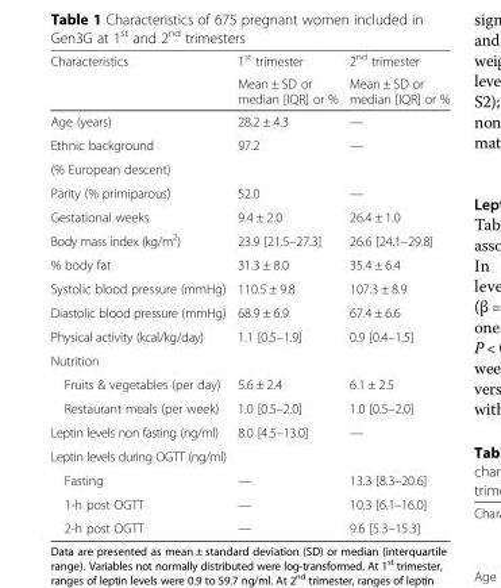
<table><thead><tr><td rowspan="2">Characteristics</td><td rowspan="2">1<sup>st</sup> trimester Mean ± SD or median [IQR] or %</td><td rowspan="2">2<sup>nd</sup> trimester Mean ± SD or median [IQR] or %</td></tr><tr></tr></thead><tbody><tr><td>Age (years)</td><td>28.2 ± 4.3</td><td>—</td></tr><tr><td>Ethnic background</td><td rowspan="2">97.2</td><td rowspan="2">—</td></tr><tr><td>(% European descent)</td></tr><tr><td>Parity (% primiparous)</td><td>52.0</td><td>—</td></tr><tr><td>Gestational weeks</td><td>9.4 ± 2.0</td><td>26.4 ± 1.0</td></tr><tr><td>Body mass index (kg/m<sup>2</sup>)</td><td>23.9 [21.5–27.3]</td><td>26.6 [24.1–29.8]</td></tr><tr><td>% body fat</td><td>31.3 ± 8.0</td><td>35.4 ± 6.4</td></tr><tr><td>Systolic blood pressure (mmHg)</td><td>110.5 ± 9.8</td><td>107.3 ± 8.9</td></tr><tr><td>Diastolic blood pressure (mmHg)</td><td>68.9 ± 6.9</td><td>67.4 ± 6.6</td></tr><tr><td>Physical activity (kcal/kg/day)</td><td>1.1 [0.5–1.9]</td><td>0.9 [0.4–1.5]</td></tr><tr><td colspan="3">Nutrition</td></tr><tr><td>Fruits &amp; vegetables (per day)</td><td>5.6 ± 2.4</td><td>6.1 ± 2.5</td></tr><tr><td>Restaurant meals (per week)</td><td>1.0 [0.5–2.0]</td><td>1.0 [0.5–2.0]</td></tr><tr><td>Leptin levels non fasting (ng/ml)</td><td>8.0 [4.5–13.0]</td><td>—</td></tr><tr><td colspan="3">Leptin levels during OGTT (ng/ml)</td></tr><tr><td>Fasting</td><td>—</td><td>13.3 [8.3–20.6]</td></tr><tr><td>1-h post OGTT</td><td>—</td><td>10.3 [6.1–16.0]</td></tr><tr><td>2-h post OGTT</td><td>—</td><td>9.6 [5.3–15.3]</td></tr></tbody></table>